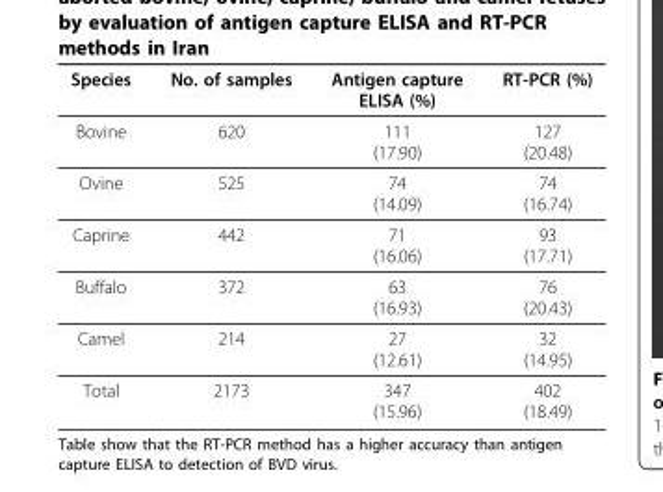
<table><thead><tr><td>Species</td><td>No. of samples</td><td>Antigen capture ELISA (%)</td><td>RT-PCR (%)</td></tr></thead><tbody><tr><td>Bovine</td><td>620</td><td>111 (17.90)</td><td>127 (20.48)</td></tr><tr><td>Ovine</td><td>525</td><td>74 (14.09)</td><td>74 (16.74)</td></tr><tr><td>Caprine</td><td>442</td><td>71 (16.06)</td><td>93 (17.71)</td></tr><tr><td>Buffalo</td><td>372</td><td>63 (16.93)</td><td>76 (20.43)</td></tr><tr><td>Camel</td><td>214</td><td>27 (12.61)</td><td>32 (14.95)</td></tr><tr><td>Total</td><td>2173</td><td>347 (15.96)</td><td>402 (18.49)</td></tr></tbody></table>